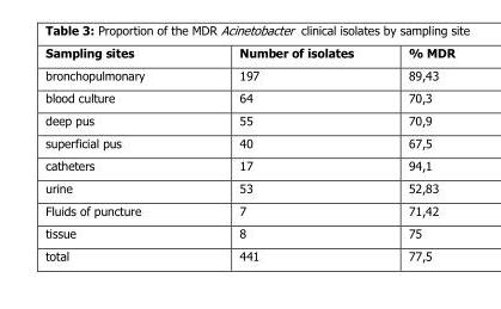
<table><thead><tr><td>Sampling sites</td><td>Number of isolates</td><td>% MDR</td></tr></thead><tbody><tr><td>bronchopulmonary</td><td>197</td><td>89,43</td></tr><tr><td>blood culture</td><td>64</td><td>70,3</td></tr><tr><td>deep pus</td><td>55</td><td>70,9</td></tr><tr><td>superficial pus</td><td>40</td><td>67,5</td></tr><tr><td>catheters</td><td>17</td><td>94,1</td></tr><tr><td>urine</td><td>53</td><td>52,83</td></tr><tr><td>Fluids of puncture</td><td>7</td><td>71,42</td></tr><tr><td>tissue</td><td>8</td><td>75</td></tr><tr><td>total</td><td>441</td><td>77,5</td></tr></tbody></table>